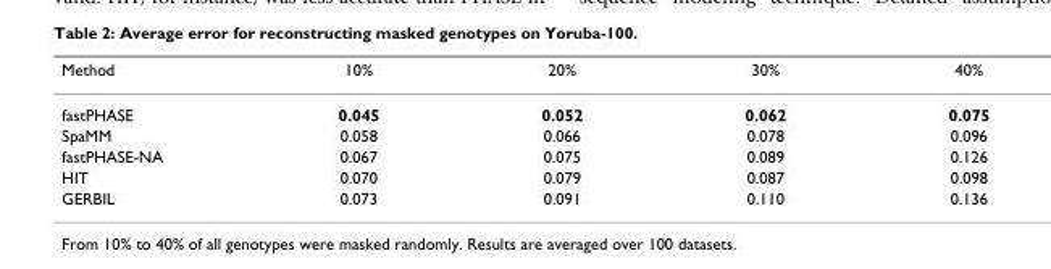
<table><thead><tr><td>Method</td><td>10%</td><td>20%</td><td>30%</td><td>40%</td></tr></thead><tbody><tr><td>fastPHASE</td><td>0.045</td><td>0.052</td><td>0.062</td><td>0.075</td></tr><tr><td>SpaMM</td><td>0.058</td><td>0.066</td><td>0.078</td><td>0.096</td></tr><tr><td>fastPHASE-NA</td><td>0.067</td><td>0.075</td><td>0.089</td><td>0.126</td></tr><tr><td>HIT</td><td>0.070</td><td>0.079</td><td>0.087</td><td>0.098</td></tr><tr><td>GERBIL</td><td>0.073</td><td>0.091</td><td>0.110</td><td>0.136</td></tr></tbody></table>